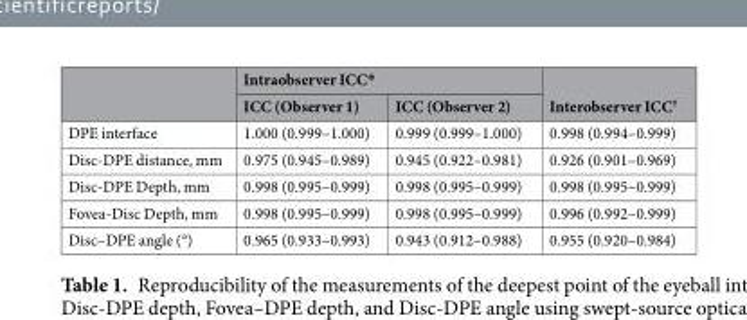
<table><thead><tr><td rowspan="2"></td><td colspan="2">Intraobserver ICC*</td><td rowspan="2">Interobserver ICC<sup>†</sup></td></tr><tr><td>ICC (Observer 1)</td><td>ICC (Observer 2)</td></tr></thead><tbody><tr><td>DPE interface</td><td>1.000 (0.999–1.000)</td><td>0.999 (0.999–1.000)</td><td>0.998 (0.994–0.999)</td></tr><tr><td>Disc-DPE distance, mm</td><td>0.975 (0.945–0.989)</td><td>0.945 (0.922–0.981)</td><td>0.926 (0.901–0.969)</td></tr><tr><td>Disc-DPE Depth, mm</td><td>0.998 (0.995–0.999)</td><td>0.998 (0.995–0.999)</td><td>0.998 (0.995–0.999)</td></tr><tr><td>Fovea-Disc Depth, mm</td><td>0.998 (0.995–0.999)</td><td>0.998 (0.995–0.999)</td><td>0.996 (0.992–0.999)</td></tr><tr><td>Disc–DPE angle (°)</td><td>0.965 (0.933–0.993)</td><td>0.943 (0.912–0.988)</td><td>0.955 (0.920–0.984)</td></tr></tbody></table>